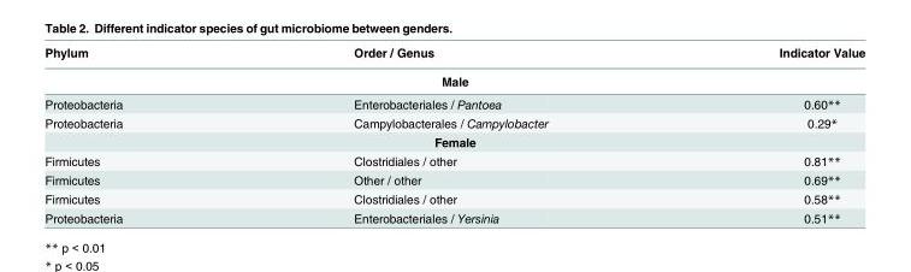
<table><thead><tr><td>Phylum</td><td>Order / Genus</td><td>Indicator Value</td></tr><tr><td colspan="3">Male</td></tr></thead><tbody><tr><td>Proteobacteria</td><td>Enterobacteriales / Pantoea</td><td>0.60**</td></tr><tr><td>Proteobacteria</td><td>Campylobacterales / Campylobacter</td><td>0.29*</td></tr><tr><td colspan="3">Female</td></tr><tr><td>Firmicutes</td><td>Clostridiales / other</td><td>0.81**</td></tr><tr><td>Firmicutes</td><td>Other / other</td><td>0.69**</td></tr><tr><td>Firmicutes</td><td>Clostridiales / other</td><td>0.58**</td></tr><tr><td>Proteobacteria</td><td>Enterobacteriales / Yersinia</td><td>0.51**</td></tr></tbody></table>